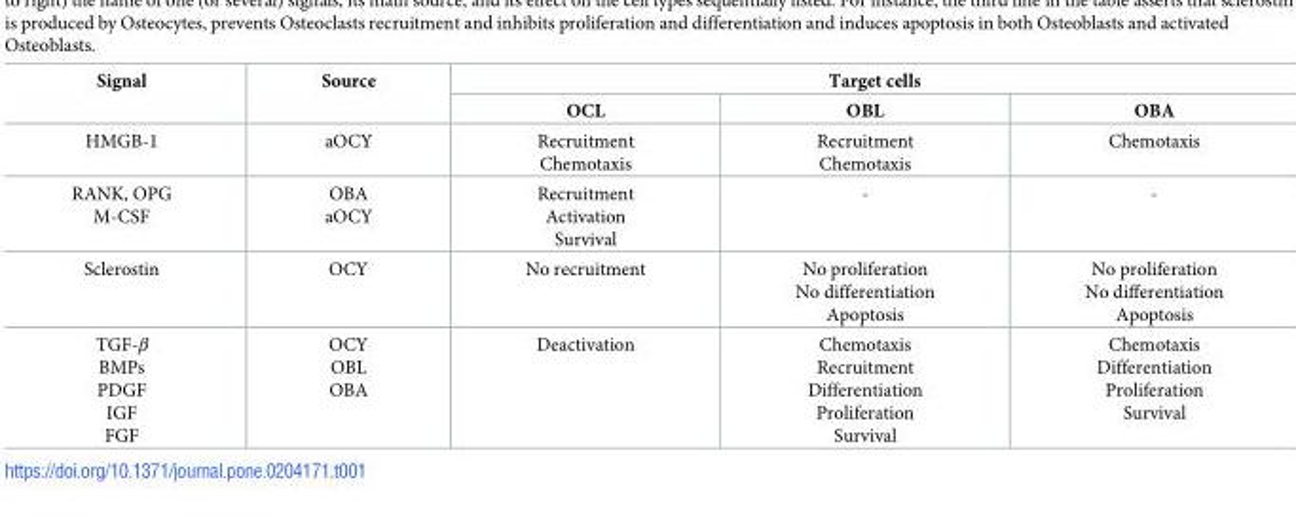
<table><thead><tr><td rowspan="2">Signal</td><td rowspan="2">Source</td><td colspan="3">Target cells</td></tr><tr><td>OCL</td><td>OBL</td><td>OBA</td></tr></thead><tbody><tr><td>HMGB-1</td><td>aOCY</td><td>Recruitment Chemotaxis</td><td>Recruitment Chemotaxis</td><td>Chemotaxis</td></tr><tr><td>RANK, OPG M-CSF</td><td>OBA aOCY</td><td>Recruitment Activation Survival</td><td>-</td><td>-</td></tr><tr><td>Sclerostin</td><td>OCY</td><td>No recruitment</td><td>No proliferation No differentiation Apoptosis</td><td>No proliferation No differentiation Apoptosis</td></tr><tr><td>TGF-β BMPs PDGF IGF FGF</td><td>OCY OBL OBA</td><td>Deactivation</td><td>Chemotaxis Recruitment Differentiation Proliferation Survival</td><td>Chemotaxis Differentiation Proliferation Survival</td></tr></tbody></table>